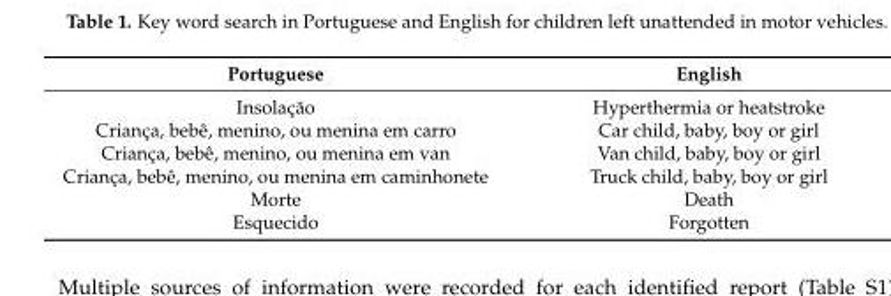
<table><thead><tr><td>Portuguese</td><td>English</td></tr></thead><tbody><tr><td>Insolação</td><td>Hyperthermia or heatstroke</td></tr><tr><td>Criança, bebê, menino, ou menina em carro</td><td>Car child, baby, boy or girl</td></tr><tr><td>Criança, bebê, menino, ou menina em van</td><td>Van child, baby, boy or girl</td></tr><tr><td>Criança, bebê, menino, ou menina em caminhonete</td><td>Truck child, baby, boy or girl</td></tr><tr><td>Morte</td><td>Death</td></tr><tr><td>Esquecido</td><td>Forgotten</td></tr></tbody></table>